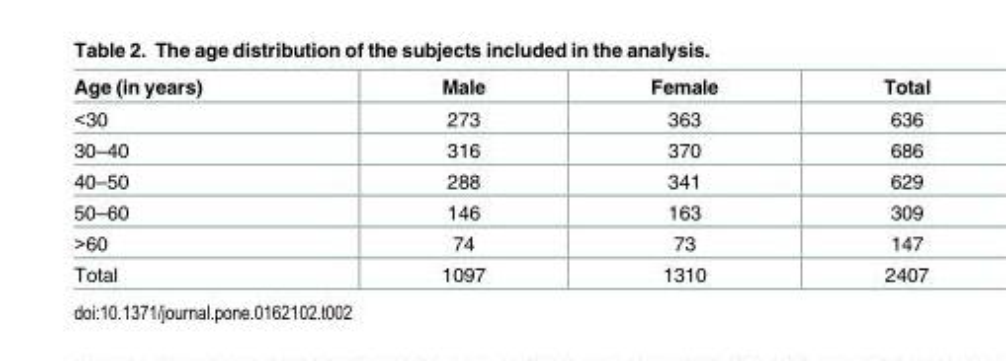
<table><thead><tr><td>Age (in years)</td><td>Male</td><td>Female</td><td>Total</td></tr></thead><tbody><tr><td>&lt;30</td><td>273</td><td>363</td><td>636</td></tr><tr><td>30–40</td><td>316</td><td>370</td><td>686</td></tr><tr><td>40–50</td><td>288</td><td>341</td><td>629</td></tr><tr><td>50–60</td><td>146</td><td>163</td><td>309</td></tr><tr><td>&gt;60</td><td>74</td><td>73</td><td>147</td></tr><tr><td>Total</td><td>1097</td><td>1310</td><td>2407</td></tr></tbody></table>